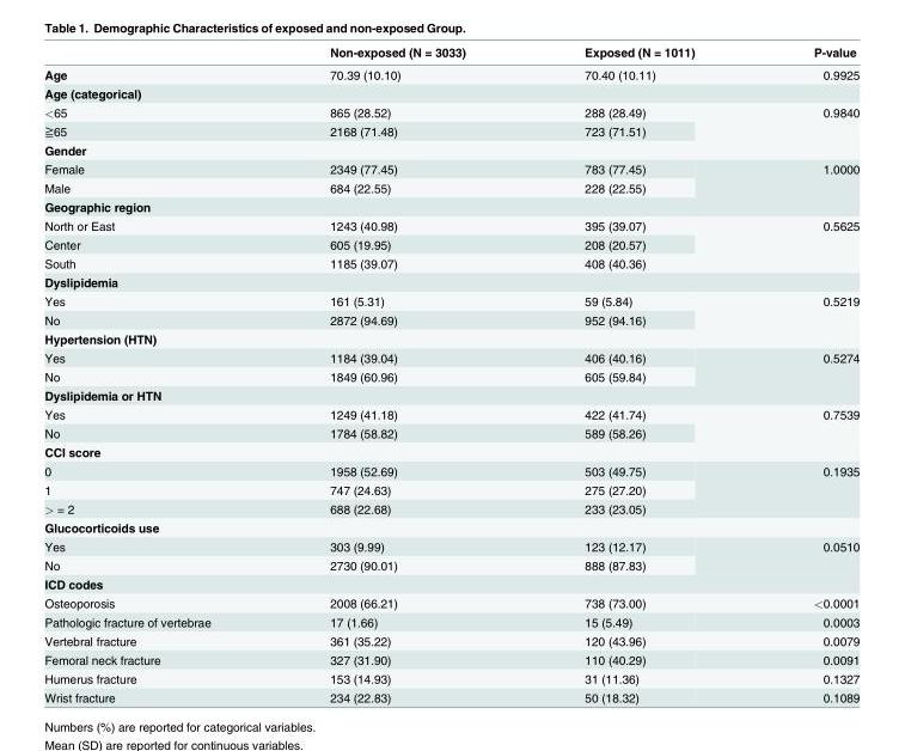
<table><thead><tr><td></td><td>Non-exposed (N = 3033)</td><td>Exposed (N = 1011)</td><td>P-value</td></tr></thead><tbody><tr><td>Age</td><td>70.39 (10.10)</td><td>70.40 (10.11)</td><td>0.9925</td></tr><tr><td colspan="4">Age (categorical)</td></tr><tr><td>&lt;65</td><td>865 (28.52)</td><td>288 (28.49)</td><td rowspan="2">0.9840</td></tr><tr><td>≧65</td><td>2168 (71.48)</td><td>723 (71.51)</td></tr><tr><td colspan="4">Gender</td></tr><tr><td>Female</td><td>2349 (77.45)</td><td>783 (77.45)</td><td rowspan="2">1.0000</td></tr><tr><td>Male</td><td>684 (22.55)</td><td>228 (22.55)</td></tr><tr><td colspan="4">Geographic region</td></tr><tr><td>North or East</td><td>1243 (40.98)</td><td>395 (39.07)</td><td rowspan="3">0.5625</td></tr><tr><td>Center</td><td>605 (19.95)</td><td>208 (20.57)</td></tr><tr><td>South</td><td>1185 (39.07)</td><td>408 (40.36)</td></tr><tr><td colspan="4">Dyslipidemia</td></tr><tr><td>Yes</td><td>161 (5.31)</td><td>59 (5.84)</td><td rowspan="2">0.5219</td></tr><tr><td>No</td><td>2872 (94.69)</td><td>952 (94.16)</td></tr><tr><td colspan="4">Hypertension (HTN)</td></tr><tr><td>Yes</td><td>1184 (39.04)</td><td>406 (40.16)</td><td rowspan="2">0.5274</td></tr><tr><td>No</td><td>1849 (60.96)</td><td>605 (59.84)</td></tr><tr><td colspan="4">Dyslipidemia or HTN</td></tr><tr><td>Yes</td><td>1249 (41.18)</td><td>422 (41.74)</td><td rowspan="2">0.7539</td></tr><tr><td>No</td><td>1784 (58.82)</td><td>589 (58.26)</td></tr><tr><td colspan="4">CCI score</td></tr><tr><td>0</td><td>1958 (52.69)</td><td>503 (49.75)</td><td rowspan="3">0.1935</td></tr><tr><td>1</td><td>747 (24.63)</td><td>275 (27.20)</td></tr><tr><td>&gt; = 2</td><td>688 (22.68)</td><td>233 (23.05)</td></tr><tr><td colspan="4">Glucocorticoids use</td></tr><tr><td>Yes</td><td>303 (9.99)</td><td>123 (12.17)</td><td rowspan="2">0.0510</td></tr><tr><td>No</td><td>2730 (90.01)</td><td>888 (87.83)</td></tr><tr><td colspan="4">ICD codes</td></tr><tr><td>Osteoporosis</td><td>2008 (66.21)</td><td>738 (73.00)</td><td>&lt;0.0001</td></tr><tr><td>Pathologic fracture of vertebrae</td><td>17 (1.66)</td><td>15 (5.49)</td><td>0.0003</td></tr><tr><td>Vertebral fracture</td><td>361 (35.22)</td><td>120 (43.96)</td><td>0.0079</td></tr><tr><td>Femoral neck fracture</td><td>327 (31.90)</td><td>110 (40.29)</td><td>0.0091</td></tr><tr><td>Humerus fracture</td><td>153 (14.93)</td><td>31 (11.36)</td><td>0.1327</td></tr><tr><td>Wrist fracture</td><td>234 (22.83)</td><td>50 (18.32)</td><td>0.1089</td></tr></tbody></table>